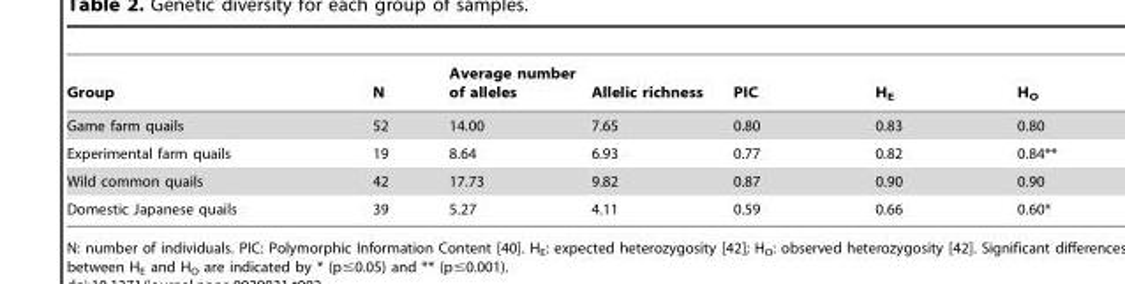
<table><thead><tr><td>Group</td><td>N</td><td>Average number of alleles</td><td>Allelic richness</td><td>PIC</td><td>H<sub>E</sub></td><td>H<sub>O</sub></td></tr></thead><tbody><tr><td>Game farm quails</td><td>52</td><td>14.00</td><td>7.65</td><td>0.80</td><td>0.83</td><td>0.80</td></tr><tr><td>Experimental farm quails</td><td>19</td><td>8.64</td><td>6.93</td><td>0.77</td><td>0.82</td><td>0.84**</td></tr><tr><td>Wild common quails</td><td>42</td><td>17.73</td><td>9.82</td><td>0.87</td><td>0.90</td><td>0.90</td></tr><tr><td>Domestic Japanese quails</td><td>39</td><td>5.27</td><td>4.11</td><td>0.59</td><td>0.66</td><td>0.60*</td></tr></tbody></table>